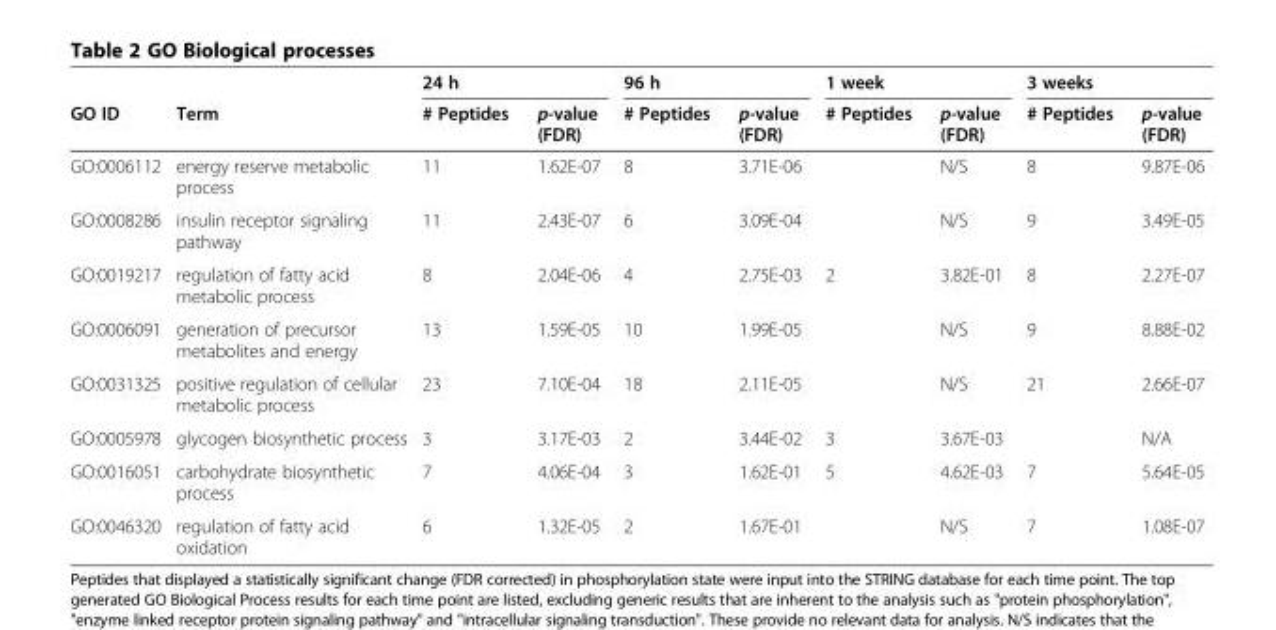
<table><thead><tr><td rowspan="2">GO ID</td><td rowspan="2">Term</td><td colspan="2">24 h</td><td colspan="2">96 h</td><td colspan="2">1 week</td><td colspan="2">3 weeks</td></tr><tr><td># Peptides</td><td>p-value (FDR)</td><td># Peptides</td><td>p-value (FDR)</td><td># Peptides</td><td>p-value (FDR)</td><td># Peptides</td><td>p-value (FDR)</td></tr></thead><tbody><tr><td>GO:0006112</td><td>energy reserve metabolic process</td><td>11</td><td>1.62E-07</td><td>8</td><td>3.71E-06</td><td></td><td>N/S</td><td>8</td><td>9.87E-06</td></tr><tr><td>GO:0008286</td><td>insulin receptor signaling pathway</td><td>11</td><td>2.43E-07</td><td>6</td><td>3.09E-04</td><td></td><td>N/S</td><td>9</td><td>3.49E-05</td></tr><tr><td>GO:0019217</td><td>regulation of fatty acid metabolic process</td><td>8</td><td>2.04E-06</td><td>4</td><td>2.75E-03</td><td>2</td><td>3.82E-01</td><td>8</td><td>2.27E-07</td></tr><tr><td>GO:0006091</td><td>generation of precursor metabolites and energy</td><td>13</td><td>1.59E-05</td><td>10</td><td>1.99E-05</td><td></td><td>N/S</td><td>9</td><td>8.88E-02</td></tr><tr><td>GO:0031325</td><td>positive regulation of cellular metabolic process</td><td>23</td><td>7.10E-04</td><td>18</td><td>2.11E-05</td><td></td><td>N/S</td><td>21</td><td>2.66E-07</td></tr><tr><td>GO:0005978</td><td>glycogen biosynthetic process</td><td>3</td><td>3.17E-03</td><td>2</td><td>3.44E-02</td><td>3</td><td>3.67E-03</td><td></td><td>N/A</td></tr><tr><td>GO:0016051</td><td>carbohydrate biosynthetic process</td><td>7</td><td>4.06E-04</td><td>3</td><td>1.62E-01</td><td>5</td><td>4.62E-03</td><td>7</td><td>5.64E-05</td></tr><tr><td>GO:0046320</td><td>regulation of fatty acid oxidation</td><td>6</td><td>1.32E-05</td><td>2</td><td>1.67E-01</td><td></td><td>N/S</td><td>7</td><td>1.08E-07</td></tr></tbody></table>